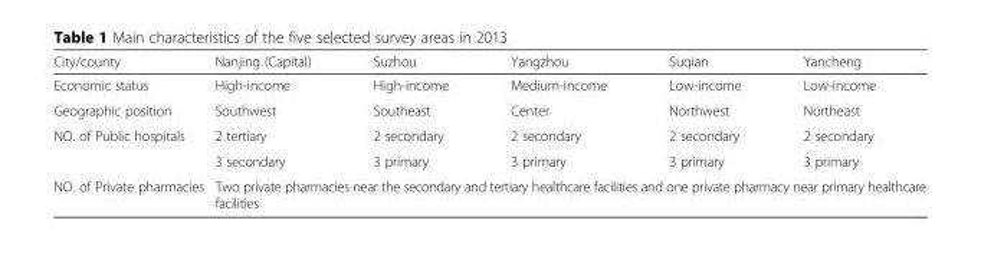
<table><thead><tr><td>City/county</td><td>Nanjing (Capital)</td><td>Suzhou</td><td>Yangzhou</td><td>Suqian</td><td>Yancheng</td></tr></thead><tbody><tr><td>Economic status</td><td>High-income</td><td>High-income</td><td>Medium-income</td><td>Low-income</td><td>Low-income</td></tr><tr><td>Geographic position</td><td>Southwest</td><td>Southeast</td><td>Center</td><td>Northwest</td><td>Northeast</td></tr><tr><td rowspan="2">NO. of Public hospitals</td><td>2 tertiary</td><td>2 secondary</td><td>2 secondary</td><td>2 secondary</td><td>2 secondary</td></tr><tr><td>3 secondary</td><td>3 primary</td><td>3 primary</td><td>3 primary</td><td>3 primary</td></tr><tr><td>NO. of Private pharmacies</td><td colspan="5">Two private pharmacies near the secondary and tertiary healthcare facilities and one private pharmacy near primary healthcare facilities</td></tr></tbody></table>